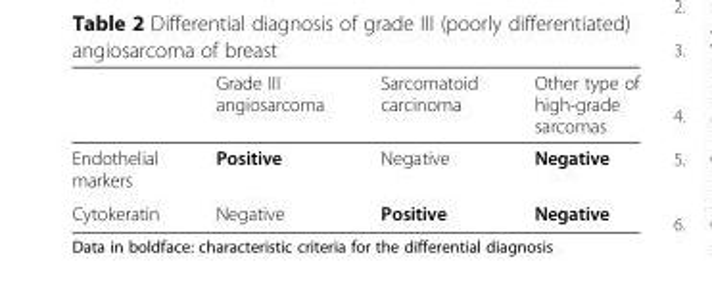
<table><thead><tr><td></td><td>Grade III angiosarcoma</td><td>Sarcomatoid carcinoma</td><td>Other type of high-grade sarcomas</td></tr></thead><tbody><tr><td>Endothelial markers</td><td>Positive</td><td>Negative</td><td>Negative</td></tr><tr><td>Cytokeratin</td><td>Negative</td><td>Positive</td><td>Negative</td></tr></tbody></table>